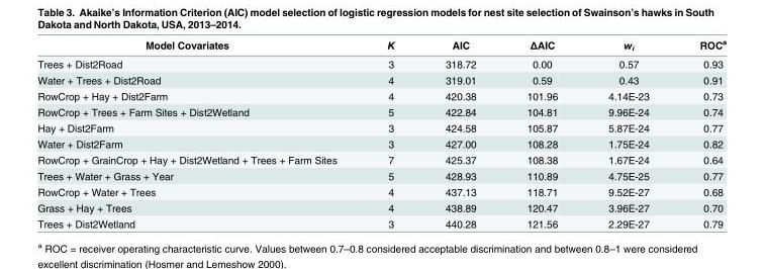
<table><thead><tr><td>Model Covariates</td><td>K</td><td>AIC</td><td>ΔAIC</td><td>w<sub>i</sub></td><td>ROC<sup>a</sup></td></tr></thead><tbody><tr><td>Trees + Dist2Road</td><td>3</td><td>318.72</td><td>0.00</td><td>0.57</td><td>0.93</td></tr><tr><td>Water + Trees + Dist2Road</td><td>4</td><td>319.01</td><td>0.59</td><td>0.43</td><td>0.91</td></tr><tr><td>RowCrop + Hay + Dist2Farm</td><td>4</td><td>420.38</td><td>101.96</td><td>4.14E-23</td><td>0.73</td></tr><tr><td>RowCrop + Trees + Farm Sites + Dist2Wetland</td><td>5</td><td>422.84</td><td>104.81</td><td>9.96E-24</td><td>0.74</td></tr><tr><td>Hay + Dist2Farm</td><td>3</td><td>424.58</td><td>105.87</td><td>5.87E-24</td><td>0.77</td></tr><tr><td>Water + Dist2Farm</td><td>3</td><td>427.00</td><td>108.28</td><td>1.75E-24</td><td>0.82</td></tr><tr><td>RowCrop + GrainCrop + Hay + Dist2Wetland + Trees + Farm Sites</td><td>7</td><td>425.37</td><td>108.38</td><td>1.67E-24</td><td>0.64</td></tr><tr><td>Trees + Water + Grass + Year</td><td>5</td><td>428.93</td><td>110.89</td><td>4.75E-25</td><td>0.77</td></tr><tr><td>RowCrop + Water + Trees</td><td>4</td><td>437.13</td><td>118.71</td><td>9.52E-27</td><td>0.68</td></tr><tr><td>Grass + Hay + Trees</td><td>4</td><td>438.89</td><td>120.47</td><td>3.96E-27</td><td>0.70</td></tr><tr><td>Trees + Dist2Wetland</td><td>3</td><td>440.28</td><td>121.56</td><td>2.29E-27</td><td>0.79</td></tr></tbody></table>